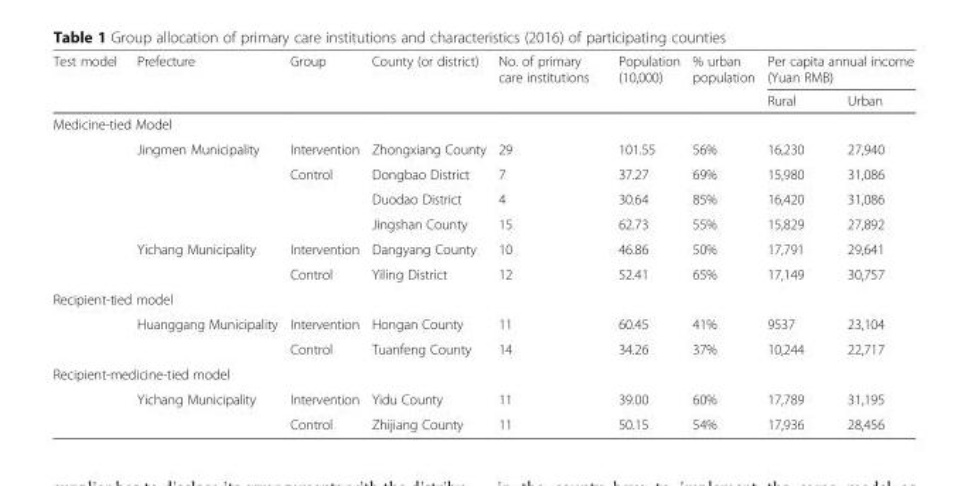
<table><thead><tr><td rowspan="2">Test model</td><td rowspan="2">Prefecture</td><td rowspan="2">Group</td><td rowspan="2">County (or district)</td><td rowspan="2">No. of primary care institutions</td><td rowspan="2">Population (10,000)</td><td rowspan="2">% urban population</td><td colspan="2">Per capita annual income (Yuan RMB)</td></tr><tr><td>Rural</td><td>Urban</td></tr></thead><tbody><tr><td colspan="9">Medicine-tied Model</td></tr><tr><td rowspan="6"></td><td rowspan="4">Jingmen Municipality</td><td>Intervention</td><td>Zhongxiang County</td><td>29</td><td>101.55</td><td>56%</td><td>16,230</td><td>27,940</td></tr><tr><td rowspan="3">Control</td><td>Dongbao District</td><td>7</td><td>37.27</td><td>69%</td><td>15,980</td><td>31,086</td></tr><tr><td>Duodao District</td><td>4</td><td>30.64</td><td>85%</td><td>16,420</td><td>31,086</td></tr><tr><td>Jingshan County</td><td>15</td><td>62.73</td><td>55%</td><td>15,829</td><td>27,892</td></tr><tr><td rowspan="2">Yichang Municipality</td><td>Intervention</td><td>Dangyang County</td><td>10</td><td>46.86</td><td>50%</td><td>17,791</td><td>29,641</td></tr><tr><td>Control</td><td>Yiling District</td><td>12</td><td>52.41</td><td>65%</td><td>17,149</td><td>30,757</td></tr><tr><td colspan="9">Recipient-tied model</td></tr><tr><td rowspan="2"></td><td rowspan="2">Huanggang Municipality</td><td>Intervention</td><td>Hongan County</td><td>11</td><td>60.45</td><td>41%</td><td>9537</td><td>23,104</td></tr><tr><td>Control</td><td>Tuanfeng County</td><td>14</td><td>34.26</td><td>37%</td><td>10,244</td><td>22,717</td></tr><tr><td colspan="9">Recipient-medicine-tied model</td></tr><tr><td rowspan="2"></td><td rowspan="2">Yichang Municipality</td><td>Intervention</td><td>Yidu County</td><td>11</td><td>39.00</td><td>60%</td><td>17,789</td><td>31,195</td></tr><tr><td>Control</td><td>Zhijiang County</td><td>11</td><td>50.15</td><td>54%</td><td>17,936</td><td>28,456</td></tr></tbody></table>